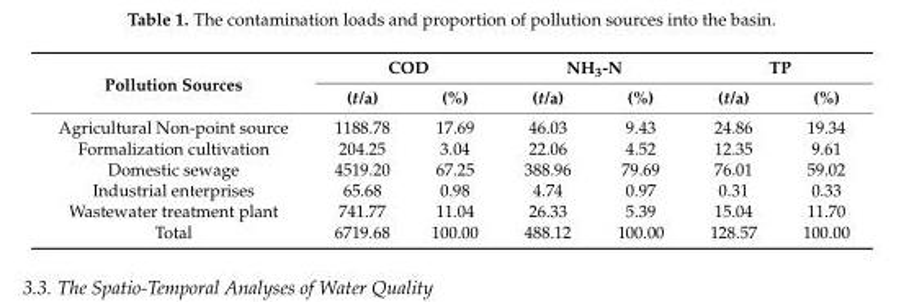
<table><thead><tr><td rowspan="2">Pollution Sources</td><td colspan="2">COD</td><td colspan="2">NH<sub>3</sub>-N</td><td colspan="2">TP</td></tr><tr><td>(t/a)</td><td>(%)</td><td>(t/a)</td><td>(%)</td><td>(t/a)</td><td>(%)</td></tr></thead><tbody><tr><td>Agricultural Non-point source</td><td>1188.78</td><td>17.69</td><td>46.03</td><td>9.43</td><td>24.86</td><td>19.34</td></tr><tr><td>Formalization cultivation</td><td>204.25</td><td>3.04</td><td>22.06</td><td>4.52</td><td>12.35</td><td>9.61</td></tr><tr><td>Domestic sewage</td><td>4519.20</td><td>67.25</td><td>388.96</td><td>79.69</td><td>76.01</td><td>59.02</td></tr><tr><td>Industrial enterprises</td><td>65.68</td><td>0.98</td><td>4.74</td><td>0.97</td><td>0.31</td><td>0.33</td></tr><tr><td>Wastewater treatment plant</td><td>741.77</td><td>11.04</td><td>26.33</td><td>5.39</td><td>15.04</td><td>11.70</td></tr><tr><td>Total</td><td>6719.68</td><td>100.00</td><td>488.12</td><td>100.00</td><td>128.57</td><td>100.00</td></tr></tbody></table>